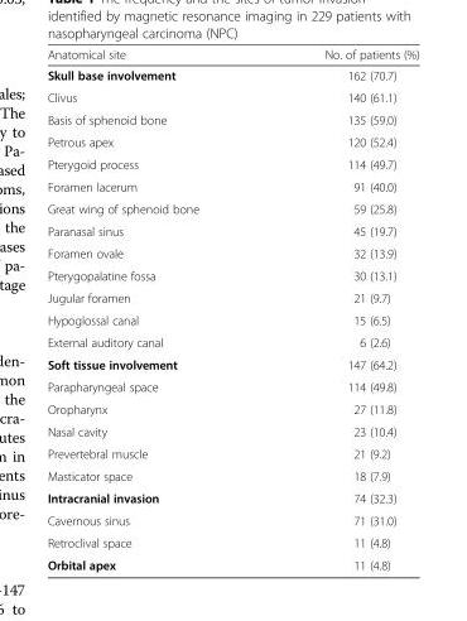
<table><thead><tr><td>Anatomical site</td><td>No. of patients (%)</td></tr></thead><tbody><tr><td>Skull base involvement</td><td>162 (70.7)</td></tr><tr><td>Clivus</td><td>140 (61.1)</td></tr><tr><td>Basis of sphenoid bone</td><td>135 (59.0)</td></tr><tr><td>Petrous apex</td><td>120 (52.4)</td></tr><tr><td>Pterygoid process</td><td>114 (49.7)</td></tr><tr><td>Foramen lacerum</td><td>91 (40.0)</td></tr><tr><td>Great wing of sphenoid bone</td><td>59 (25.8)</td></tr><tr><td>Paranasal sinus</td><td>45 (19.7)</td></tr><tr><td>Foramen ovale</td><td>32 (13.9)</td></tr><tr><td>Pterygopalatine fossa</td><td>30 (13.1)</td></tr><tr><td>Jugular foramen</td><td>21 (9.7)</td></tr><tr><td>Hypoglossal canal</td><td>15 (6.5)</td></tr><tr><td>External auditory canal</td><td>6 (2.6)</td></tr><tr><td>Soft tissue involvement</td><td>147 (64.2)</td></tr><tr><td>Parapharyngeal space</td><td>114 (49.8)</td></tr><tr><td>Oropharynx</td><td>27 (11.8)</td></tr><tr><td>Nasal cavity</td><td>23 (10.4)</td></tr><tr><td>Prevertebral muscle</td><td>21 (9.2)</td></tr><tr><td>Masticator space</td><td>18 (7.9)</td></tr><tr><td>Intracranial invasion</td><td>74 (32.3)</td></tr><tr><td>Cavernous sinus</td><td>71 (31.0)</td></tr><tr><td>Retroclival space</td><td>11 (4.8)</td></tr><tr><td>Orbital apex</td><td>11 (4.8)</td></tr></tbody></table>